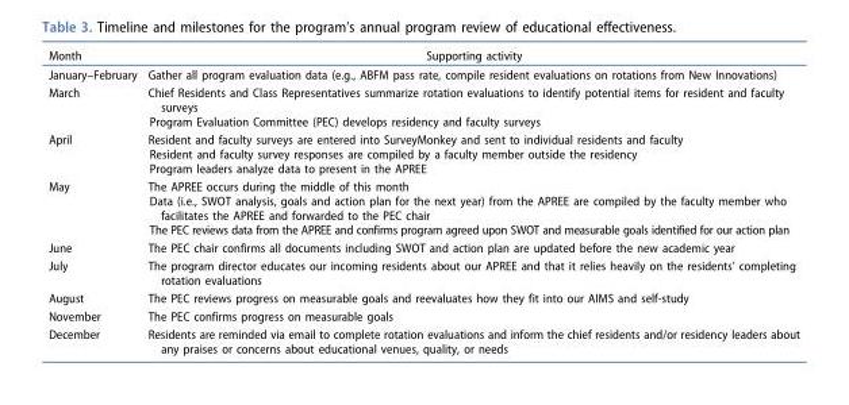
<table><thead><tr><td>Month</td><td>Supporting activity</td></tr></thead><tbody><tr><td>January–February</td><td>Gather all program evaluation data (e.g., ABFM pass rate, compile resident evaluations on rotations from New Innovations)</td></tr><tr><td>March</td><td>Chief Residents and Class Representatives summarize rotation evaluations to identify potential items for resident and faculty surveys Program Evaluation Committee (PEC) develops residency and faculty surveys</td></tr><tr><td>April</td><td>Resident and faculty surveys are entered into SurveyMonkey and sent to individual residents and faculty Resident and faculty survey responses are compiled by a faculty member outside the residency Program leaders analyze data to present in the APREE</td></tr><tr><td>May</td><td>The APREE occurs during the middle of this month Data (i.e., SWOT analysis, goals and action plan for the next year) from the APREE are compiled by the faculty member who facilitates the APREE and forwarded to the PEC chair The PEC reviews data from the APREE and confirms program agreed upon SWOT and measurable goals identified for our action plan</td></tr><tr><td>June</td><td>The PEC chair confirms all documents including SWOT and action plan are updated before the new academic year</td></tr><tr><td>July</td><td>The program director educates our incoming residents about our APREE and that it relies heavily on the residents’ completing rotation evaluations</td></tr><tr><td>August</td><td>The PEC reviews progress on measurable goals and reevaluates how they fit into our AIMS and self-study</td></tr><tr><td>November</td><td>The PEC confirms progress on measurable goals</td></tr><tr><td>December</td><td>Residents are reminded via email to complete rotation evaluations and inform the chief residents and/or residency leaders about any praises or concerns about educational venues, quality, or needs</td></tr></tbody></table>